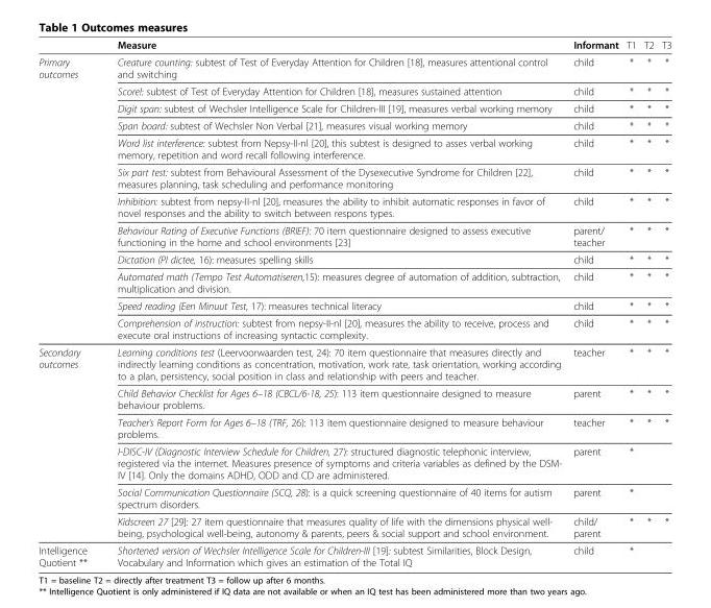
<table><thead><tr><td></td><td>Measure</td><td>Informant</td><td>T1</td><td>T2</td><td>T3</td></tr></thead><tbody><tr><td rowspan="12">Primary outcomes</td><td>Creature counting: subtest of Test of Everyday Attention for Children [18], measures attentional control and switching</td><td>child</td><td>*</td><td>*</td><td>*</td></tr><tr><td>Score!: subtest of Test of Everyday Attention for Children [18], measures sustained attention</td><td>child</td><td>*</td><td>*</td><td>*</td></tr><tr><td>Digit span: subtest of Wechsler Intelligence Scale for Children-III [19], measures verbal working memory</td><td>child</td><td>*</td><td>*</td><td>*</td></tr><tr><td>Span board: subtest of Wechsler Non Verbal [21], measures visual working memory</td><td>child</td><td>*</td><td>*</td><td>*</td></tr><tr><td>Word list interference: subtest from Nepsy-II-nl [20], this subtest is designed to asses verbal working memory, repetition and word recall following interference.</td><td>child</td><td>*</td><td>*</td><td>*</td></tr><tr><td>Six part test: subtest from Behavioural Assessment of the Dysexecutive Syndrome for Children [22], measures planning, task scheduling and performance monitoring</td><td>child</td><td>*</td><td>*</td><td>*</td></tr><tr><td>Inhibition: subtest from nepsy-II-nl [20], measures the ability to inhibit automatic responses in favor of novel responses and the ability to switch between respons types.</td><td>child</td><td>*</td><td>*</td><td>*</td></tr><tr><td>Behaviour Rating of Executive Functions (BRIEF): 70 item questionnaire designed to assess executive functioning in the home and school environments [23]</td><td>parent/ teacher</td><td>*</td><td>*</td><td>*</td></tr><tr><td>Dictation (PI dictee, 16): measures spelling skills</td><td>child</td><td>*</td><td>*</td><td>*</td></tr><tr><td>Automated math (Tempo Test Automatiseren,15): measures degree of automation of addition, subtraction, multiplication and division.</td><td>child</td><td>*</td><td>*</td><td>*</td></tr><tr><td>Speed reading (Een Minuut Test, 17): measures technical literacy</td><td>child</td><td>*</td><td>*</td><td>*</td></tr><tr><td>Comprehension of instruction: subtest from nepsy-II-nl [20], measures the ability to receive, process and execute oral instructions of increasing syntactic complexity.</td><td>child</td><td>*</td><td>*</td><td>*</td></tr><tr><td rowspan="6">Secondary outcomes</td><td>Learning conditions test (Leervoorwaarden test, 24): 70 item questionnaire that measures directly and indirectly learning conditions as concentration, motivation, work rate, task orientation, working according to a plan, persistency, social position in class and relationship with peers and teacher.</td><td>teacher</td><td>*</td><td>*</td><td>*</td></tr><tr><td>Child Behavior Checklist for Ages 6–18 (CBCL/6-18, 25): 113 item questionnaire designed to measure behaviour problems.</td><td>parent</td><td>*</td><td>*</td><td>*</td></tr><tr><td>Teacher’s Report Form for Ages 6–18 (TRF, 26): 113 item questionnaire designed to measure behaviour problems.</td><td>teacher</td><td>*</td><td>*</td><td>*</td></tr><tr><td>I-DISC-IV (Diagnostic Interview Schedule for Children, 27): structured diagnostic telephonic interview, registered via the internet. Measures presence of symptoms and criteria variables as defined by the DSM- IV [14]. Only the domains ADHD, ODD and CD are administered.</td><td>parent</td><td>*</td><td></td><td></td></tr><tr><td>Social Communication Questionnaire (SCQ, 28): is a quick screening questionnaire of 40 items for autism spectrum disorders.</td><td>parent</td><td>*</td><td></td><td></td></tr><tr><td>Kidscreen 27 [29]: 27 item questionnaire that measures quality of life with the dimensions physical well- being, psychological well-being, autonomy &amp; parents, peers &amp; social support and school environment.</td><td>child/ parent</td><td>*</td><td>*</td><td>*</td></tr><tr><td>Intelligence Quotient **</td><td>Shortened version of Wechsler Intelligence Scale for Children-III [19]: subtest Similarities, Block Design, Vocabulary and Information which gives an estimation of the Total IQ</td><td>child</td><td>*</td><td></td><td></td></tr></tbody></table>